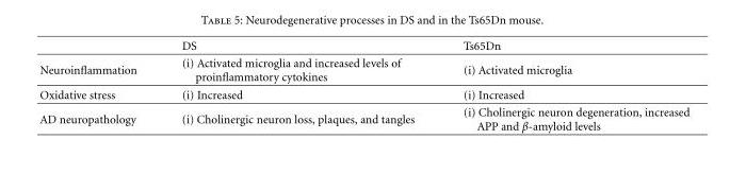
<table><thead><tr><td></td><td>DS</td><td>Ts65Dn</td></tr></thead><tbody><tr><td>Neuroinflammation</td><td>(i) Activated microglia and increased levels of proinflammatory cytokines</td><td>(i) Activated microglia</td></tr><tr><td>Oxidative stress</td><td>(i) Increased</td><td>(i) Increased</td></tr><tr><td>AD neuropathology</td><td>(i) Cholinergic neuron loss, plaques, and tangles</td><td>(i) Cholinergic neuron degeneration, increased APP and β-amyloid levels</td></tr></tbody></table>